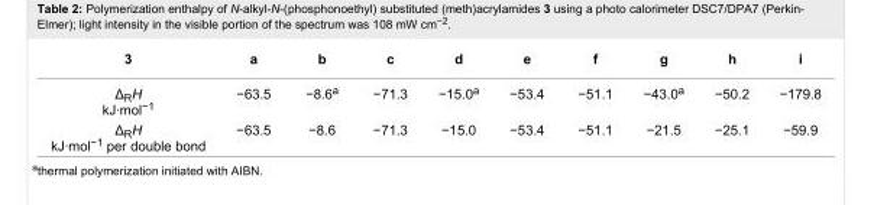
<table><tbody><tr><td>3</td><td>a</td><td>b</td><td>c</td><td>d</td><td>e</td><td>f</td><td>g</td><td>h</td><td>i</td></tr><tr><td>Δ<sub>R</sub>H kJ·mol<sup>−1</sup></td><td>−63.5</td><td>−8.6<sup>a</sup></td><td>−71.3</td><td>−15.0<sup>a</sup></td><td>−53.4</td><td>−51.1</td><td>−43.0<sup>a</sup></td><td>−50.2</td><td>−179.8</td></tr><tr><td>Δ<sub>R</sub>H kJ·mol<sup>−1</sup> per double bond</td><td>−63.5</td><td>−8.6</td><td>−71.3</td><td>−15.0</td><td>−53.4</td><td>−51.1</td><td>−21.5</td><td>−25.1</td><td>−59.9</td></tr></tbody></table>